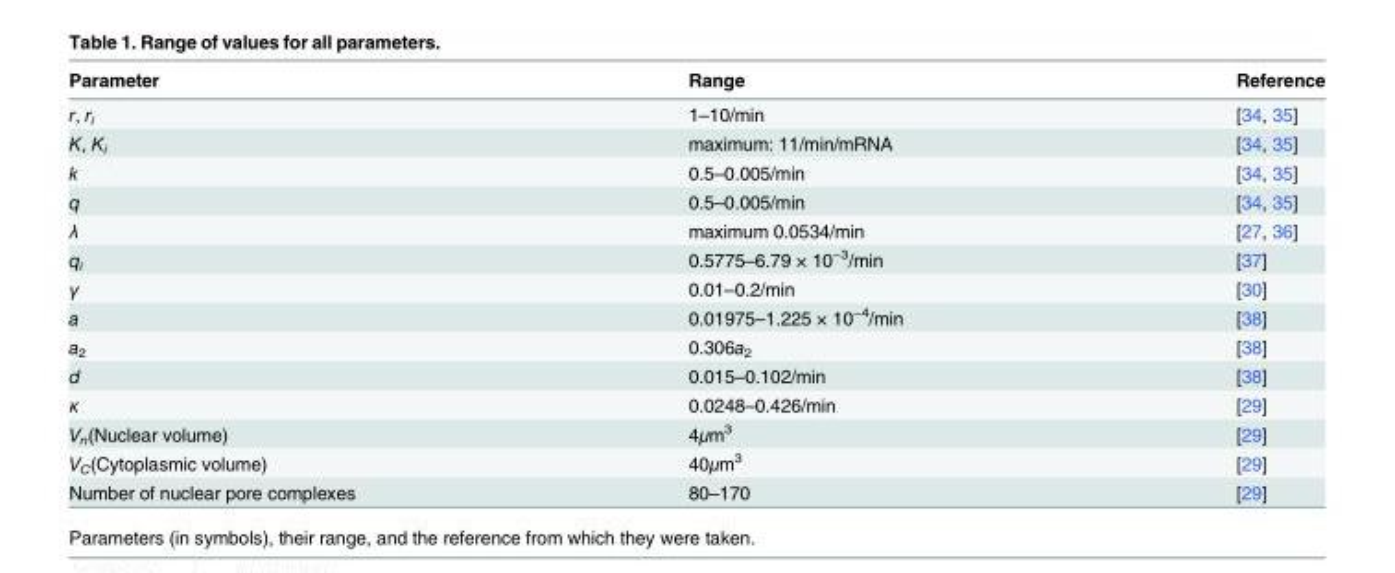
<table><thead><tr><td>Parameter</td><td>Range</td><td>Reference</td></tr></thead><tbody><tr><td>r, r<sub>i</sub></td><td>1–10/min</td><td>[34, 35]</td></tr><tr><td>K, K<sub>i</sub></td><td>maximum: 11/min/mRNA</td><td>[34, 35]</td></tr><tr><td>k</td><td>0.5–0.005/min</td><td>[34, 35]</td></tr><tr><td>q</td><td>0.5–0.005/min</td><td>[34, 35]</td></tr><tr><td>λ</td><td>maximum 0.0534/min</td><td>[27, 36]</td></tr><tr><td>q<sub>i</sub></td><td>0.5775–6.79 × 10<sup>−3</sup>/min</td><td>[37]</td></tr><tr><td>γ</td><td>0.01–0.2/min</td><td>[30]</td></tr><tr><td>a</td><td>0.01975–1.225 × 10<sup>−4</sup>/min</td><td>[38]</td></tr><tr><td>a<sub>2</sub></td><td>0.306a<sub>2</sub></td><td>[38]</td></tr><tr><td>d</td><td>0.015–0.102/min</td><td>[38]</td></tr><tr><td>κ</td><td>0.0248–0.426/min</td><td>[29]</td></tr><tr><td>V<sub>n</sub>(Nuclear volume)</td><td>4μm<sup>3</sup></td><td>[29]</td></tr><tr><td>V<sub>C</sub>(Cytoplasmic volume)</td><td>40μm<sup>3</sup></td><td>[29]</td></tr><tr><td>Number of nuclear pore complexes</td><td>80–170</td><td>[29]</td></tr></tbody></table>